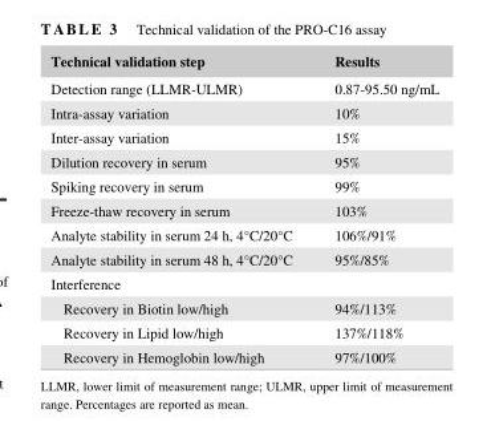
<table><thead><tr><td>Technical validation step</td><td>Results</td></tr></thead><tbody><tr><td>Detection range (LLMR- ULMR)</td><td>0.87- 95.50 ng/mL</td></tr><tr><td>Intra- assay variation</td><td>10%</td></tr><tr><td>Inter- assay variation</td><td>15%</td></tr><tr><td>Dilution recovery in serum</td><td>95%</td></tr><tr><td>Spiking recovery in serum</td><td>99%</td></tr><tr><td>Freeze- thaw recovery in serum</td><td>103%</td></tr><tr><td>Analyte stability in serum 24 h, 4°C/20°C</td><td>106%/91%</td></tr><tr><td>Analyte stability in serum 48 h, 4°C/20°C</td><td>95%/85%</td></tr><tr><td colspan="2">Interference</td></tr><tr><td>Recovery in Biotin low/high</td><td>94%/113%</td></tr><tr><td>Recovery in Lipid low/high</td><td>137%/118%</td></tr><tr><td>Recovery in Hemoglobin low/high</td><td>97%/100%</td></tr></tbody></table>